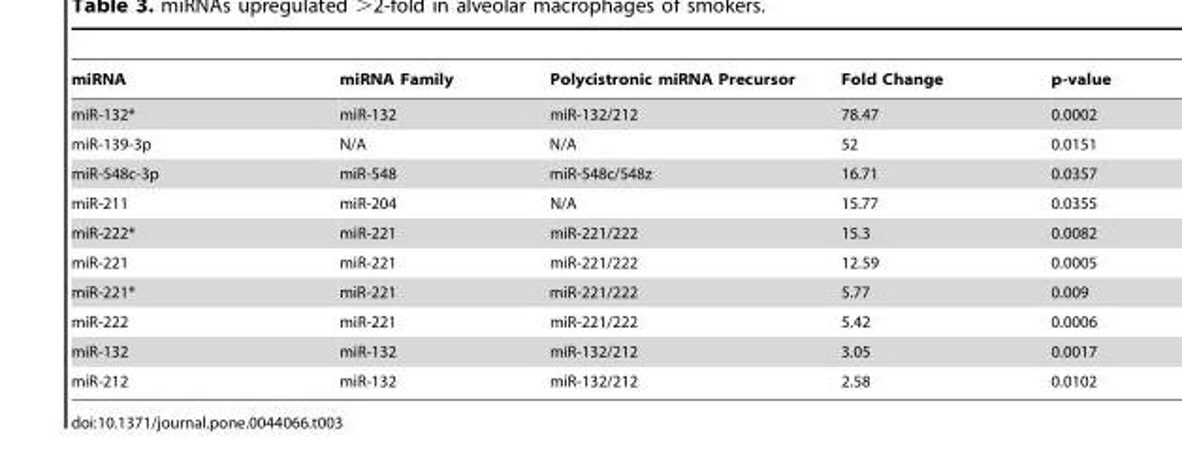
<table><thead><tr><td>miRNA</td><td>miRNA Family</td><td>Polycistronic miRNA Precursor</td><td>Fold Change</td><td>p-value</td></tr></thead><tbody><tr><td>miR-132*</td><td>miR-132</td><td>miR-132/212</td><td>78.47</td><td>0.0002</td></tr><tr><td>miR-139-3p</td><td>N/A</td><td>N/A</td><td>52</td><td>0.0151</td></tr><tr><td>miR-548c-3p</td><td>miR-548</td><td>miR-548c/548z</td><td>16.71</td><td>0.0357</td></tr><tr><td>miR-211</td><td>miR-204</td><td>N/A</td><td>15.77</td><td>0.0355</td></tr><tr><td>miR-222*</td><td>miR-221</td><td>miR-221/222</td><td>15.3</td><td>0.0082</td></tr><tr><td>miR-221</td><td>miR-221</td><td>miR-221/222</td><td>12.59</td><td>0.0005</td></tr><tr><td>miR-221*</td><td>miR-221</td><td>miR-221/222</td><td>5.77</td><td>0.009</td></tr><tr><td>miR-222</td><td>miR-221</td><td>miR-221/222</td><td>5.42</td><td>0.0006</td></tr><tr><td>miR-132</td><td>miR-132</td><td>miR-132/212</td><td>3.05</td><td>0.0017</td></tr><tr><td>miR-212</td><td>miR-132</td><td>miR-132/212</td><td>2.58</td><td>0.0102</td></tr></tbody></table>